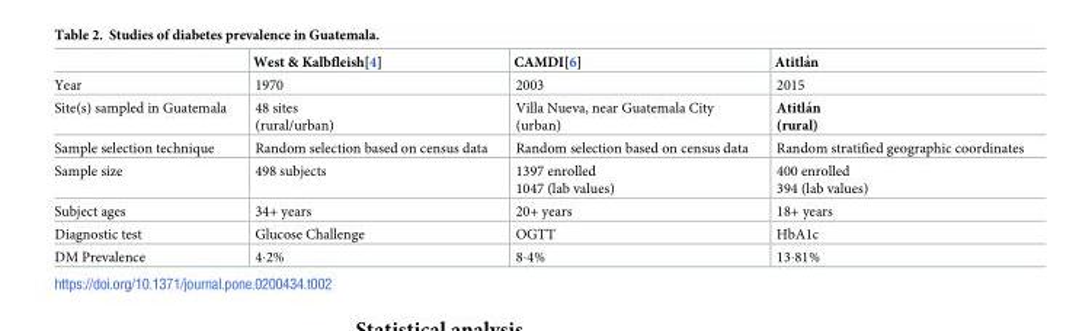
<table><thead><tr><td></td><td>West &amp; Kalbfleish[4]</td><td>CAMDI[6]</td><td>Atitla´n</td></tr></thead><tbody><tr><td>Year</td><td>1970</td><td>2003</td><td>2015</td></tr><tr><td>Site(s) sampled in Guatemala</td><td>48 sites (rural/urban)</td><td>Villa Nueva, near Guatemala City (urban)</td><td>Atitla´n (rural)</td></tr><tr><td>Sample selection technique</td><td>Random selection based on census data</td><td>Random selection based on census data</td><td>Random stratified geographic coordinates</td></tr><tr><td>Sample size</td><td>498 subjects</td><td>1397 enrolled 1047 (lab values)</td><td>400 enrolled 394 (lab values)</td></tr><tr><td>Subject ages</td><td>34+ years</td><td>20+ years</td><td>18+ years</td></tr><tr><td>Diagnostic test</td><td>Glucose Challenge</td><td>OGTT</td><td>HbA1c</td></tr><tr><td>DM Prevalence</td><td>4·2%</td><td>8·4%</td><td>13·81%</td></tr></tbody></table>